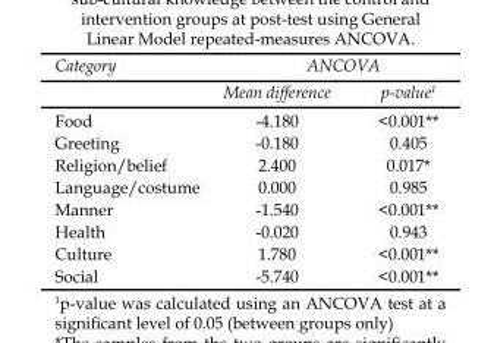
<table><thead><tr><td rowspan="2">Category</td><td colspan="2">ANCOVA</td></tr><tr><td>Mean difference</td><td>p-value<sup>1</sup></td></tr></thead><tbody><tr><td>Food</td><td>-4.180</td><td>&lt;0.001**</td></tr><tr><td>Greeting</td><td>-0.180</td><td>0.405</td></tr><tr><td>Religion/belief</td><td>2.400</td><td>0.017*</td></tr><tr><td>Language/costume</td><td>0.000</td><td>0.985</td></tr><tr><td>Manner</td><td>-1.540</td><td>&lt;0.001**</td></tr><tr><td>Health</td><td>-0.020</td><td>0.943</td></tr><tr><td>Culture</td><td>1.780</td><td>&lt;0.001**</td></tr><tr><td>Social</td><td>-5.740</td><td>&lt;0.001**</td></tr></tbody></table>